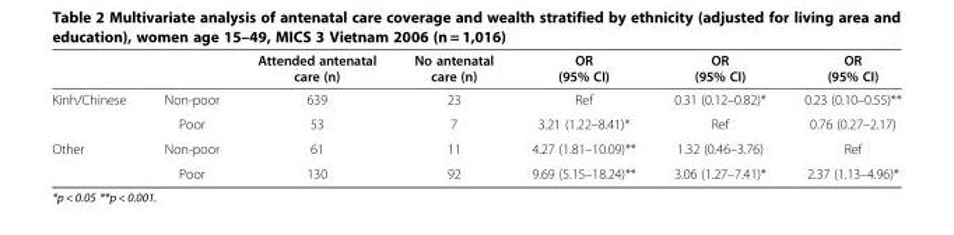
<table><thead><tr><td></td><td></td><td>Attended antenatal care (n)</td><td>No antenatal care (n)</td><td>OR (95% CI)</td><td>OR (95% CI)</td><td>OR (95% CI)</td></tr></thead><tbody><tr><td rowspan="2">Kinh/Chinese</td><td>Non-poor</td><td>639</td><td>23</td><td>Ref</td><td>0.31 (0.12–0.82)*</td><td>0.23 (0.10–0.55)**</td></tr><tr><td>Poor</td><td>53</td><td>7</td><td>3.21 (1.22–8.41)*</td><td>Ref</td><td>0.76 (0.27–2.17)</td></tr><tr><td rowspan="2">Other</td><td>Non-poor</td><td>61</td><td>11</td><td>4.27 (1.81–10.09)**</td><td>1.32 (0.46–3.76)</td><td>Ref</td></tr><tr><td>Poor</td><td>130</td><td>92</td><td>9.69 (5.15–18.24)**</td><td>3.06 (1.27–7.41)*</td><td>2.37 (1.13–4.96)*</td></tr></tbody></table>